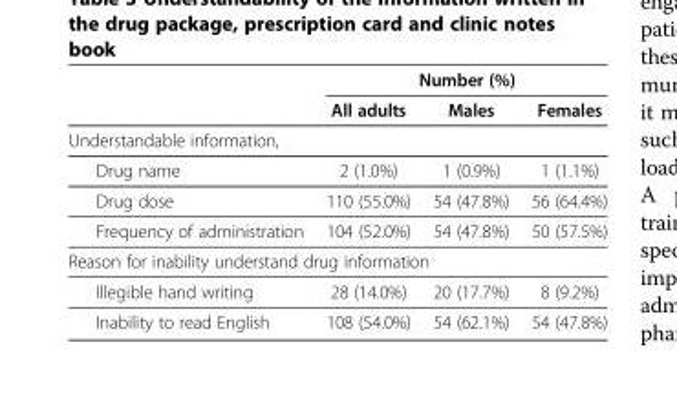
<table><thead><tr><td rowspan="2"></td><td colspan="3">Number (%)</td></tr><tr><td>All adults</td><td>Males</td><td>Females</td></tr></thead><tbody><tr><td colspan="4">Understandable information,</td></tr><tr><td>Drug name</td><td>2 (1.0%)</td><td>1 (0.9%)</td><td>1 (1.1%)</td></tr><tr><td>Drug dose</td><td>110 (55.0%)</td><td>54 (47.8%)</td><td>56 (64.4%)</td></tr><tr><td>Frequency of administration</td><td>104 (52.0%)</td><td>54 (47.8%)</td><td>50 (57.5%)</td></tr><tr><td colspan="4">Reason for inability understand drug information</td></tr><tr><td>Illegible hand writing</td><td>28 (14.0%)</td><td>20 (17.7%)</td><td>8 (9.2%)</td></tr><tr><td>Inability to read English</td><td>108 (54.0%)</td><td>54 (62.1%)</td><td>54 (47.8%)</td></tr></tbody></table>